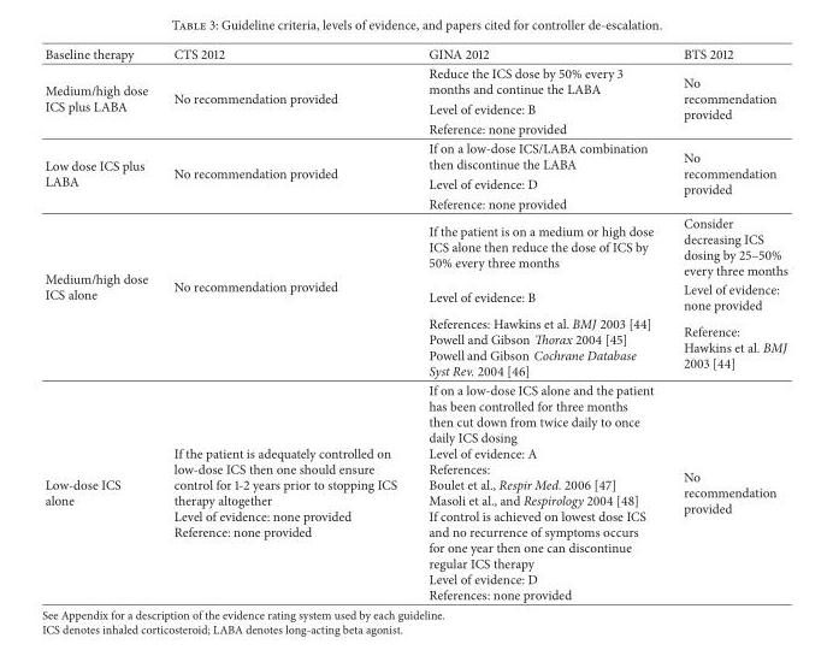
<table><thead><tr><td>Baseline therapy</td><td>CTS 2012</td><td>GINA 2012</td><td>BTS 2012</td></tr></thead><tbody><tr><td rowspan="3">Medium/high dose ICS plus LABA</td><td rowspan="3">No recommendation provided</td><td>Reduce the ICS dose by 50% every 3 months and continue the LABA</td><td rowspan="3">No recommendation provided</td></tr><tr><td>Level of evidence: B</td></tr><tr><td>Reference: none provided</td></tr><tr><td rowspan="3">Low dose ICS plus LABA</td><td rowspan="3">No recommendation provided</td><td>If on a low-dose ICS/LABA combination then discontinue the LABA</td><td rowspan="3">No recommendation provided</td></tr><tr><td>Level of evidence: D</td></tr><tr><td>Reference: none provided</td></tr><tr><td rowspan="3">Medium/high dose ICS alone</td><td rowspan="3">No recommendation provided</td><td>If the patient is on a medium or high dose ICS alone then reduce the dose of ICS by 50% every three months</td><td>Consider decreasing ICS dosing by 25–50% every three months</td></tr><tr><td>Level of evidence: B</td><td>Level of evidence: none provided</td></tr><tr><td>References: Hawkins et al. BMJ 2003 [44] Powell and Gibson Thorax 2004 [45] Powell and Gibson Cochrane Database Syst Rev. 2004 [46]</td><td>Reference: Hawkins et al. BMJ 2003 [44]</td></tr><tr><td>Low-dose ICS alone</td><td>If the patient is adequately controlled on low-dose ICS then one should ensure control for 1-2 years prior to stopping ICS therapy altogether Level of evidence: none provided Reference: none provided</td><td>If on a low-dose ICS alone and the patient has been controlled for three months then cut down from twice daily to once daily ICS dosing Level of evidence: A References: Boulet et al., Respir Med. 2006 [47] Masoli et al., and Respirology 2004 [48] If control is achieved on lowest dose ICS and no recurrence of symptoms occurs for one year then one can discontinue regular ICS therapy Level of evidence: D References: none provided</td><td>No recommendation provided</td></tr></tbody></table>